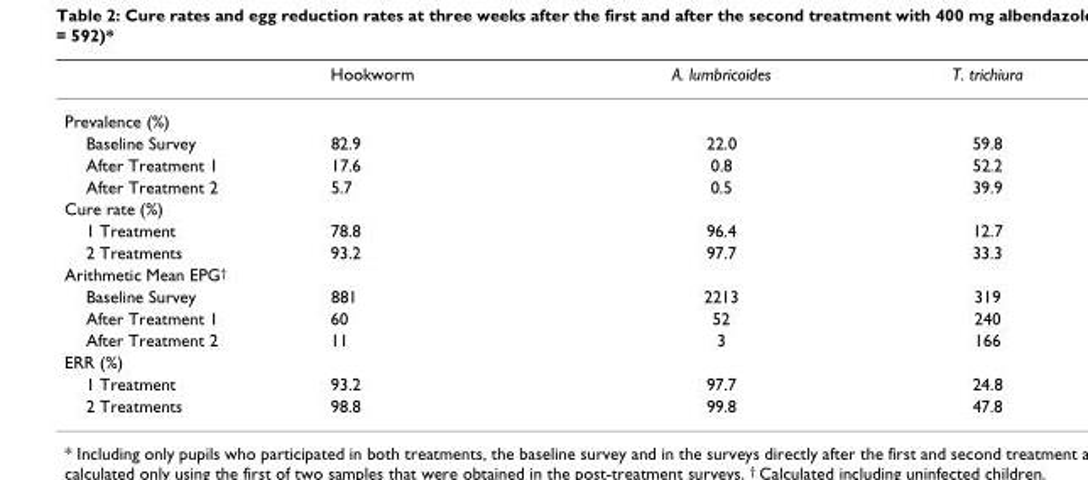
<table><thead><tr><td></td><td>Hookworm</td><td>A. lumbricoides</td><td>T. trichiura</td></tr></thead><tbody><tr><td colspan="4">Prevalence (%)</td></tr><tr><td>Baseline Survey</td><td>82.9</td><td>22.0</td><td>59.8</td></tr><tr><td>After Treatment 1</td><td>17.6</td><td>0.8</td><td>52.2</td></tr><tr><td>After Treatment 2</td><td>5.7</td><td>0.5</td><td>39.9</td></tr><tr><td colspan="4">Cure rate (%)</td></tr><tr><td>1 Treatment</td><td>78.8</td><td>96.4</td><td>12.7</td></tr><tr><td>2 Treatments</td><td>93.2</td><td>97.7</td><td>33.3</td></tr><tr><td colspan="4">Arithmetic Mean EPG†</td></tr><tr><td>Baseline Survey</td><td>881</td><td>2213</td><td>319</td></tr><tr><td>After Treatment 1</td><td>60</td><td>52</td><td>240</td></tr><tr><td>After Treatment 2</td><td>11</td><td>3</td><td>166</td></tr><tr><td colspan="4">ERR (%)</td></tr><tr><td>1 Treatment</td><td>93.2</td><td>97.7</td><td>24.8</td></tr><tr><td>2 Treatments</td><td>98.8</td><td>99.8</td><td>47.8</td></tr></tbody></table>